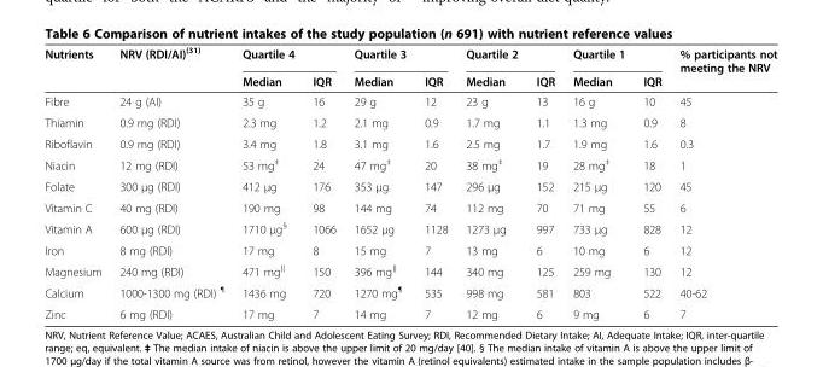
<table><thead><tr><td rowspan="2">Nutrients</td><td rowspan="2">NRV (RDI/AI)<sup>(31)</sup></td><td colspan="2">Quartile 4</td><td colspan="2">Quartile 3</td><td colspan="2">Quartile 2</td><td colspan="2">Quartile 1</td><td rowspan="2">% participants not meeting the NRV</td></tr><tr><td>Median</td><td>IQR</td><td>Median</td><td>IQR</td><td>Median</td><td>IQR</td><td>Median</td><td>IQR</td></tr></thead><tbody><tr><td>Fibre</td><td>24 g (AI)</td><td>35 g</td><td>16</td><td>29 g</td><td>12</td><td>23 g</td><td>13</td><td>16 g</td><td>10</td><td>45</td></tr><tr><td>Thiamin</td><td>0.9 mg (RDI)</td><td>2.3 mg</td><td>1.2</td><td>2.1 mg</td><td>0.9</td><td>1.7 mg</td><td>1.1</td><td>1.3 mg</td><td>0.9</td><td>8</td></tr><tr><td>Riboflavin</td><td>0.9 mg (RDI)</td><td>3.4 mg</td><td>1.8</td><td>3.1 mg</td><td>1.6</td><td>2.5 mg</td><td>1.7</td><td>1.9 mg</td><td>1.6</td><td>0.3</td></tr><tr><td>Niacin</td><td>12 mg (RDI)</td><td>53 mg<sup>‡</sup></td><td>24</td><td>47 mg<sup>‡</sup></td><td>20</td><td>38 mg<sup>‡</sup></td><td>19</td><td>28 mg<sup>‡</sup></td><td>18</td><td>1</td></tr><tr><td>Folate</td><td>300 μg (RDI)</td><td>412 μg</td><td>176</td><td>353 μg</td><td>147</td><td>296 μg</td><td>152</td><td>215 μg</td><td>120</td><td>45</td></tr><tr><td>Vitamin C</td><td>40 mg (RDI)</td><td>190 mg</td><td>98</td><td>144 mg</td><td>74</td><td>112 mg</td><td>70</td><td>71 mg</td><td>55</td><td>6</td></tr><tr><td>Vitamin A</td><td>600 μg (RDI)</td><td>1710 μg<sup>§</sup></td><td>1066</td><td>1652 μg</td><td>1128</td><td>1273 μg</td><td>997</td><td>733 μg</td><td>828</td><td>12</td></tr><tr><td>Iron</td><td>8 mg (RDI)</td><td>17 mg</td><td>8</td><td>15 mg</td><td>7</td><td>13 mg</td><td>6</td><td>10 mg</td><td>6</td><td>12</td></tr><tr><td>Magnesium</td><td>240 mg (RDI)</td><td>471 mg<sup>∥</sup></td><td>150</td><td>396 mg<sup>∥</sup></td><td>144</td><td>340 mg</td><td>125</td><td>259 mg</td><td>130</td><td>12</td></tr><tr><td>Calcium</td><td>1000-1300 mg (RDI) <sup>¶</sup></td><td>1436 mg</td><td>720</td><td>1270 mg<sup>¶</sup></td><td>535</td><td>998 mg</td><td>581</td><td>803</td><td>522</td><td>40-62</td></tr><tr><td>Zinc</td><td>6 mg (RDI)</td><td>17 mg</td><td>7</td><td>14 mg</td><td>7</td><td>12 mg</td><td>6</td><td>9 mg</td><td>6</td><td>7</td></tr></tbody></table>